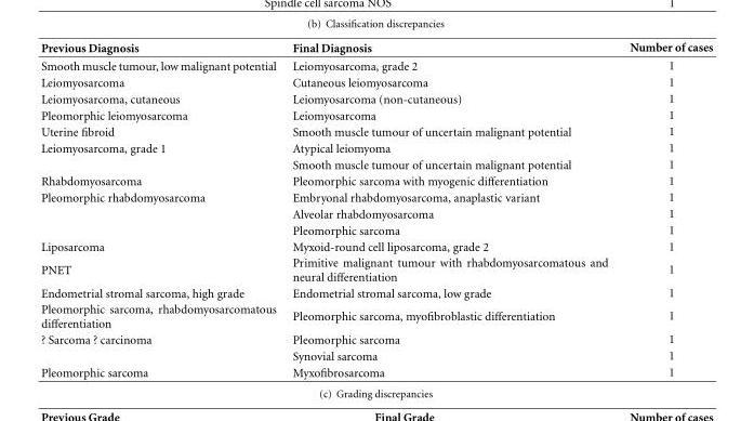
<table><thead><tr><td>Previous Diagnosis</td><td>Final Diagnosis</td><td>Number of cases</td></tr></thead><tbody><tr><td>Smooth muscle tumour, low malignant potential</td><td>Leiomyosarcoma, grade 2</td><td>1</td></tr><tr><td>Leiomyosarcoma</td><td>Cutaneous leiomyosarcoma</td><td>1</td></tr><tr><td>Leiomyosarcoma, cutaneous</td><td>Leiomyosarcoma (non-cutaneous)</td><td>1</td></tr><tr><td>Pleomorphic leiomyosarcoma</td><td>Leiomyosarcoma</td><td>1</td></tr><tr><td>Uterine fibroid</td><td>Smooth muscle tumour of uncertain malignant potential</td><td>1</td></tr><tr><td rowspan="2">Leiomyosarcoma, grade 1</td><td>Atypical leiomyoma</td><td>1</td></tr><tr><td>Smooth muscle tumour of uncertain malignant potential</td><td>1</td></tr><tr><td>Rhabdomyosarcoma</td><td>Pleomorphic sarcoma with myogenic differentiation</td><td>1</td></tr><tr><td rowspan="3">Pleomorphic rhabdomyosarcoma</td><td>Embryonal rhabdomyosarcoma, anaplastic variant</td><td>1</td></tr><tr><td>Alveolar rhabdomyosarcoma</td><td>1</td></tr><tr><td>Pleomorphic sarcoma</td><td>1</td></tr><tr><td>Liposarcoma</td><td>Myxoid-round cell liposarcoma, grade 2</td><td>1</td></tr><tr><td>PNET</td><td>Primitive malignant tumour with rhabdomyosarcomatous and neural differentiation</td><td>1</td></tr><tr><td>Endometrial stromal sarcoma, high grade</td><td>Endometrial stromal sarcoma, low grade</td><td>1</td></tr><tr><td>Pleomorphic sarcoma, rhabdomyosarcomatous differentiation</td><td>Pleomorphic sarcoma, myofibroblastic differentiation</td><td>1</td></tr><tr><td rowspan="2">? Sarcoma ? carcinoma</td><td>Pleomorphic sarcoma</td><td>1</td></tr><tr><td>Synovial sarcoma</td><td>1</td></tr><tr><td>Pleomorphic sarcoma</td><td>Myxofibrosarcoma</td><td>1</td></tr></tbody></table>